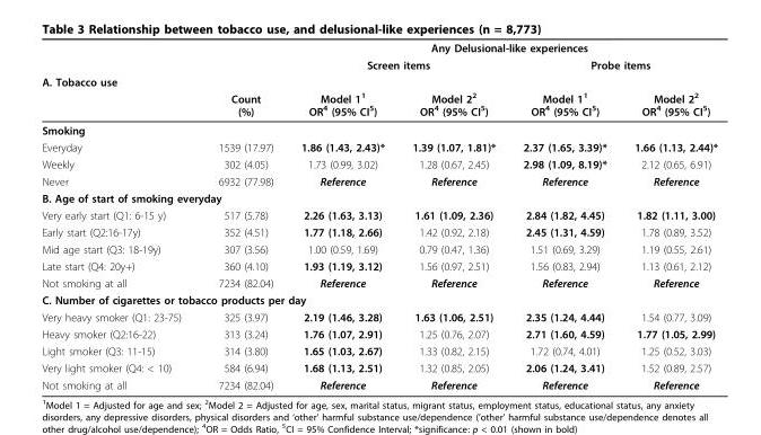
<table><thead><tr><td rowspan="2"></td><td rowspan="2"></td><td colspan="4">Any Delusional-like experiences</td></tr><tr><td colspan="2">Screen items</td><td colspan="2">Probe items</td></tr><tr><td colspan="6">A. Tobacco use</td></tr><tr><td></td><td>Count (%)</td><td>Model 1<sup>1</sup> OR<sup>4</sup> (95% CI<sup>5</sup>)</td><td>Model 2<sup>2</sup> OR<sup>4</sup> (95% CI<sup>5</sup>)</td><td>Model 1<sup>1</sup> OR<sup>4</sup> (95% CI<sup>5</sup>)</td><td>Model 2<sup>2</sup> OR<sup>4</sup> (95% CI<sup>5</sup>)</td></tr></thead><tbody><tr><td colspan="6">Smoking</td></tr><tr><td>Everyday</td><td>1539 (17.97)</td><td>1.86 (1.43, 2.43)*</td><td>1.39 (1.07, 1.81)*</td><td>2.37 (1.65, 3.39)*</td><td>1.66 (1.13, 2.44)*</td></tr><tr><td>Weekly</td><td>302 (4.05)</td><td>1.73 (0.99, 3.02)</td><td>1.28 (0.67, 2.45)</td><td>2.98 (1.09, 8.19)*</td><td>2.12 (0.65, 6.91)</td></tr><tr><td>Never</td><td>6932 (77.98)</td><td>Reference</td><td>Reference</td><td>Reference</td><td>Reference</td></tr><tr><td colspan="6">B. Age of start of smoking everyday</td></tr><tr><td>Very early start (Q1: 6-15 y)</td><td>517 (5.78)</td><td>2.26 (1.63, 3.13)</td><td>1.61 (1.09, 2.36)</td><td>2.84 (1.82, 4.45)</td><td>1.82 (1.11, 3.00)</td></tr><tr><td>Early start (Q2:16-17y)</td><td>352 (4.51)</td><td>1.77 (1.18, 2.66)</td><td>1.42 (0.92, 2.18)</td><td>2.45 (1.31, 4.59)</td><td>1.78 (0.89, 3.52)</td></tr><tr><td>Mid age start (Q3: 18-19y)</td><td>307 (3.56)</td><td>1.00 (0.59, 1.69)</td><td>0.79 (0.47, 1.36)</td><td>1.51 (0.69, 3.29)</td><td>1.19 (0.55, 2.61)</td></tr><tr><td>Late start (Q4: 20y+)</td><td>360 (4.10)</td><td>1.93 (1.19, 3.12)</td><td>1.56 (0.97, 2.51)</td><td>1.56 (0.83, 2.94)</td><td>1.13 (0.61, 2.12)</td></tr><tr><td>Not smoking at all</td><td>7234 (82.04)</td><td>Reference</td><td>Reference</td><td>Reference</td><td>Reference</td></tr><tr><td colspan="6">C. Number of cigarettes or tobacco products per day</td></tr><tr><td>Very heavy smoker (Q1: 23-75)</td><td>325 (3.97)</td><td>2.19 (1.46, 3.28)</td><td>1.63 (1.06, 2.51)</td><td>2.35 (1.24, 4.44)</td><td>1.54 (0.77, 3.09)</td></tr><tr><td>Heavy smoker (Q2:16-22)</td><td>313 (3.24)</td><td>1.76 (1.07, 2.91)</td><td>1.25 (0.76, 2.07)</td><td>2.71 (1.60, 4.59)</td><td>1.77 (1.05, 2.99)</td></tr><tr><td>Light smoker (Q3: 11-15)</td><td>314 (3.80)</td><td>1.65 (1.03, 2.67)</td><td>1.33 (0.82, 2.15)</td><td>1.72 (0.74, 4.01)</td><td>1.25 (0.52, 3.03)</td></tr><tr><td>Very light smoker (Q4: &lt; 10)</td><td>584 (6.94)</td><td>1.68 (1.13, 2.51)</td><td>1.32 (0.85, 2.05)</td><td>2.06 (1.24, 3.41)</td><td>1.52 (0.89, 2.57)</td></tr><tr><td>Not smoking at all</td><td>7234 (82.04)</td><td>Reference</td><td>Reference</td><td>Reference</td><td>Reference</td></tr></tbody></table>